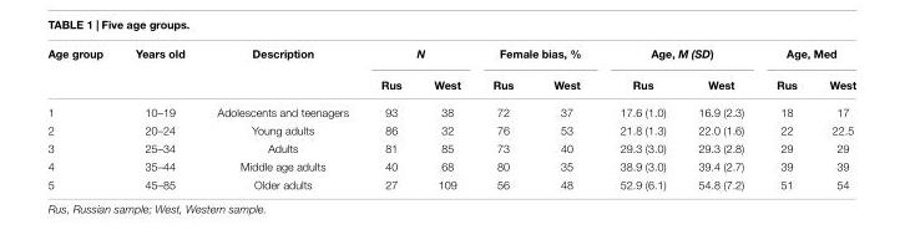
<table><thead><tr><td rowspan="2">Age group</td><td rowspan="2">Years old</td><td rowspan="2">Description</td><td colspan="2">N</td><td colspan="2">Female bias, %</td><td colspan="2">Age, M (SD)</td><td colspan="2">Age, Med</td></tr><tr><td>Rus</td><td>West</td><td>Rus</td><td>West</td><td>Rus</td><td>West</td><td>Rus</td><td>West</td></tr></thead><tbody><tr><td>1</td><td>10–19</td><td>Adolescents and teenagers</td><td>93</td><td>38</td><td>72</td><td>37</td><td>17.6 (1.0)</td><td>16.9 (2.3)</td><td>18</td><td>17</td></tr><tr><td>2</td><td>20–24</td><td>Young adults</td><td>86</td><td>32</td><td>76</td><td>53</td><td>21.8 (1.3)</td><td>22.0 (1.6)</td><td>22</td><td>22.5</td></tr><tr><td>3</td><td>25–34</td><td>Adults</td><td>81</td><td>85</td><td>73</td><td>40</td><td>29.3 (3.0)</td><td>29.3 (2.8)</td><td>29</td><td>29</td></tr><tr><td>4</td><td>35–44</td><td>Middle age adults</td><td>40</td><td>68</td><td>80</td><td>35</td><td>38.9 (3.0)</td><td>39.4 (2.7)</td><td>39</td><td>39</td></tr><tr><td>5</td><td>45–85</td><td>Older adults</td><td>27</td><td>109</td><td>56</td><td>48</td><td>52.9 (6.1)</td><td>54.8 (7.2)</td><td>51</td><td>54</td></tr></tbody></table>